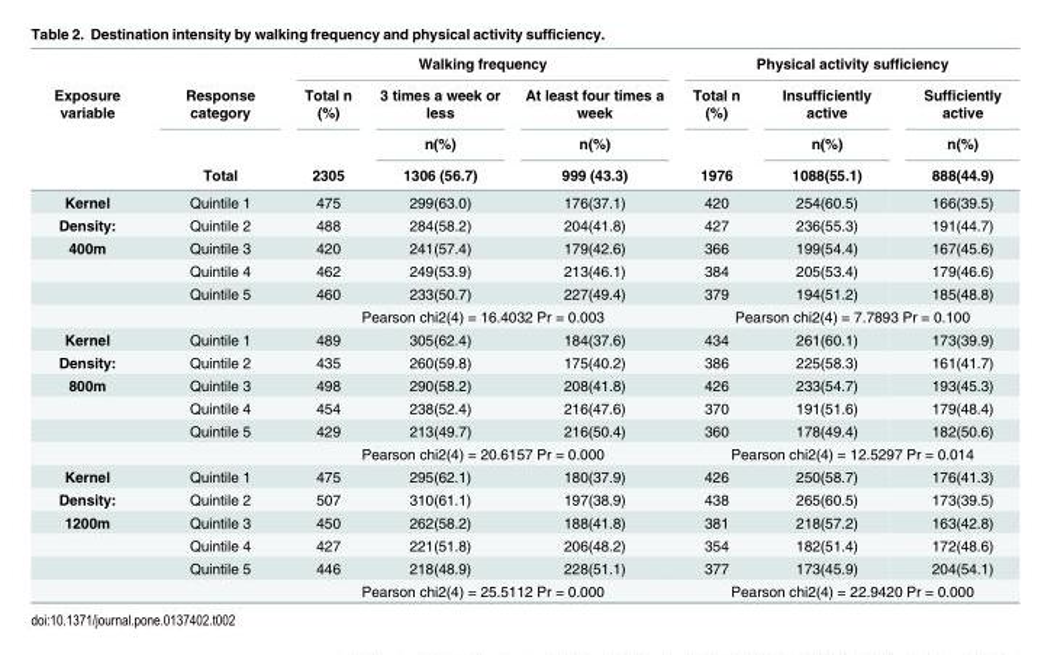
<table><thead><tr><td rowspan="4">Exposure variable</td><td rowspan="4">Response category Total</td><td colspan="3">Walking frequency</td><td colspan="3">Physical activity sufficiency</td></tr><tr><td rowspan="3">Total n (%) 2305</td><td rowspan="3">3 times a week or less n(%) 1306 (56.7)</td><td rowspan="3">At least four times a week n(%) 999 (43.3)</td><td rowspan="3">Total n (%) 1976</td><td rowspan="3">Insufficiently active n(%) 1088(55.1)</td><td rowspan="3">Sufficiently active n(%) 888(44.9)</td></tr><tr></tr><tr></tr></thead><tbody><tr><td>Kernel</td><td>Quintile 1</td><td>475</td><td>299(63.0)</td><td>176(37.1)</td><td>420</td><td>254(60.5)</td><td>166(39.5)</td></tr><tr><td>Density:</td><td>Quintile 2</td><td>488</td><td>284(58.2)</td><td>204(41.8)</td><td>427</td><td>236(55.3)</td><td>191(44.7)</td></tr><tr><td rowspan="4">400m</td><td>Quintile 3</td><td>420</td><td>241(57.4)</td><td>179(42.6)</td><td>366</td><td>199(54.4)</td><td>167(45.6)</td></tr><tr><td>Quintile 4</td><td>462</td><td>249(53.9)</td><td>213(46.1)</td><td>384</td><td>205(53.4)</td><td>179(46.6)</td></tr><tr><td>Quintile 5</td><td>460</td><td>233(50.7)</td><td>227(49.4)</td><td>379</td><td>194(51.2)</td><td>185(48.8)</td></tr><tr><td></td><td colspan="3">Pearson chi2(4) = 16.4032 Pr = 0.003</td><td colspan="3">Pearson chi2(4) = 7.7893 Pr = 0.100</td></tr><tr><td>Kernel</td><td>Quintile 1</td><td>489</td><td>305(62.4)</td><td>184(37.6)</td><td>434</td><td>261(60.1)</td><td>173(39.9)</td></tr><tr><td>Density:</td><td>Quintile 2</td><td>435</td><td>260(59.8)</td><td>175(40.2)</td><td>386</td><td>225(58.3)</td><td>161(41.7)</td></tr><tr><td rowspan="4">800m</td><td>Quintile 3</td><td>498</td><td>290(58.2)</td><td>208(41.8)</td><td>426</td><td>233(54.7)</td><td>193(45.3)</td></tr><tr><td>Quintile 4</td><td>454</td><td>238(52.4)</td><td>216(47.6)</td><td>370</td><td>191(51.6)</td><td>179(48.4)</td></tr><tr><td>Quintile 5</td><td>429</td><td>213(49.7)</td><td>216(50.4)</td><td>360</td><td>178(49.4)</td><td>182(50.6)</td></tr><tr><td></td><td colspan="3">Pearson chi2(4) = 20.6157 Pr = 0.000</td><td colspan="3">Pearson chi2(4) = 12.5297 Pr = 0.014</td></tr><tr><td>Kernel</td><td>Quintile 1</td><td>475</td><td>295(62.1)</td><td>180(37.9)</td><td>426</td><td>250(58.7)</td><td>176(41.3)</td></tr><tr><td>Density:</td><td>Quintile 2</td><td>507</td><td>310(61.1)</td><td>197(38.9)</td><td>438</td><td>265(60.5)</td><td>173(39.5)</td></tr><tr><td rowspan="4">1200m</td><td>Quintile 3</td><td>450</td><td>262(58.2)</td><td>188(41.8)</td><td>381</td><td>218(57.2)</td><td>163(42.8)</td></tr><tr><td>Quintile 4</td><td>427</td><td>221(51.8)</td><td>206(48.2)</td><td>354</td><td>182(51.4)</td><td>172(48.6)</td></tr><tr><td>Quintile 5</td><td>446</td><td>218(48.9)</td><td>228(51.1)</td><td>377</td><td>173(45.9)</td><td>204(54.1)</td></tr><tr><td></td><td colspan="3">Pearson chi2(4) = 25.5112 Pr = 0.000</td><td colspan="3">Pearson chi2(4) = 22.9420 Pr = 0.000</td></tr></tbody></table>